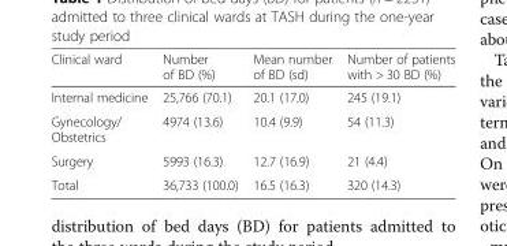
<table><thead><tr><td>Clinical ward</td><td>Number of BD (%)</td><td>Mean number of BD (sd)</td><td>Number of patients with &gt; 30 BD (%)</td></tr></thead><tbody><tr><td>Internal medicine</td><td>25,766 (70.1)</td><td>20.1 (17.0)</td><td>245 (19.1)</td></tr><tr><td>Gynecology/ Obstetrics</td><td>4974 (13.6)</td><td>10.4 (9.9)</td><td>54 (11.3)</td></tr><tr><td>Surgery</td><td>5993 (16.3)</td><td>12.7 (16.9)</td><td>21 (4.4)</td></tr><tr><td>Total</td><td>36,733 (100.0)</td><td>16.5 (16.3)</td><td>320 (14.3)</td></tr></tbody></table>